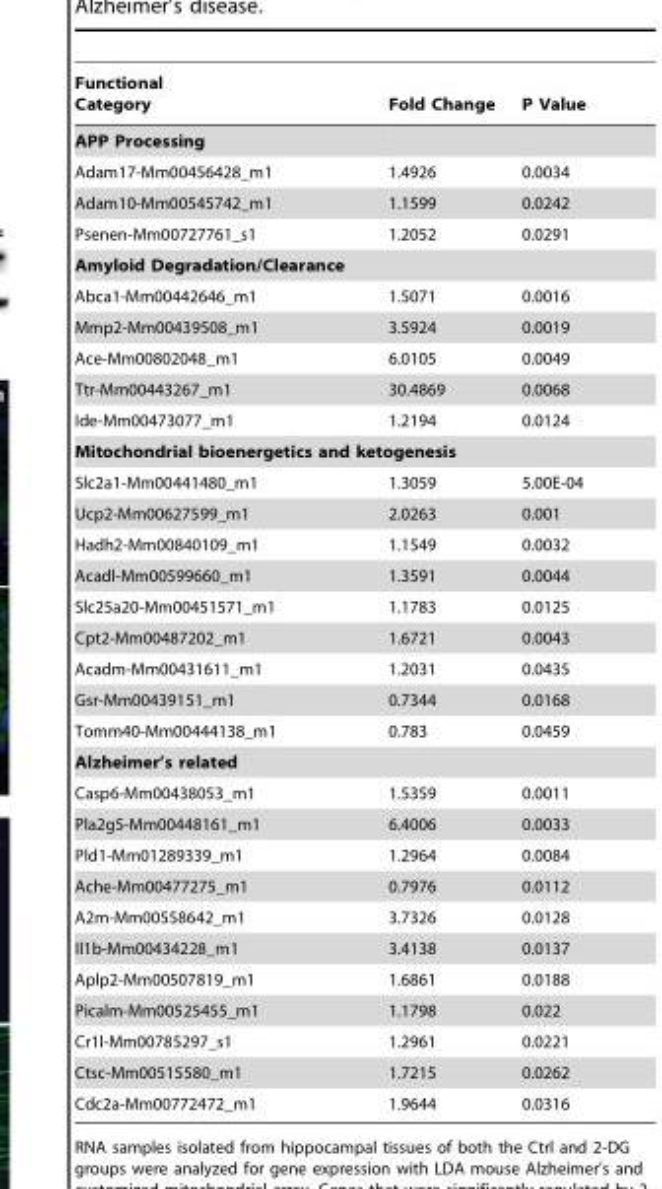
<table><thead><tr><td>Functional Category</td><td>Fold Change</td><td>P Value</td></tr></thead><tbody><tr><td colspan="3">APP Processing</td></tr><tr><td>Adam17-Mm00456428_m1</td><td>1.4926</td><td>0.0034</td></tr><tr><td>Adam10-Mm00545742_m1</td><td>1.1599</td><td>0.0242</td></tr><tr><td>Psenen-Mm00727761_s1</td><td>1.2052</td><td>0.0291</td></tr><tr><td colspan="3">Amyloid Degradation/Clearance</td></tr><tr><td>Abca1-Mm00442646_m1</td><td>1.5071</td><td>0.0016</td></tr><tr><td>Mmp2-Mm00439508_m1</td><td>3.5924</td><td>0.0019</td></tr><tr><td>Ace-Mm00802048_m1</td><td>6.0105</td><td>0.0049</td></tr><tr><td>Ttr-Mm00443267_m1</td><td>30.4869</td><td>0.0068</td></tr><tr><td>Ide-Mm00473077_m1</td><td>1.2194</td><td>0.0124</td></tr><tr><td colspan="3">Mitochondrial bioenergetics and ketogenesis</td></tr><tr><td>Slc2a1-Mm00441480_m1</td><td>1.3059</td><td>5.00E-04</td></tr><tr><td>Ucp2-Mm00627599_m1</td><td>2.0263</td><td>0.001</td></tr><tr><td>Hadh2-Mm00840109_m1</td><td>1.1549</td><td>0.0032</td></tr><tr><td>Acadl-Mm00599660_m1</td><td>1.3591</td><td>0.0044</td></tr><tr><td>Slc25a20-Mm00451571_m1</td><td>1.1783</td><td>0.0125</td></tr><tr><td>Cpt2-Mm00487202_m1</td><td>1.6721</td><td>0.0043</td></tr><tr><td>Acadm-Mm00431611_m1</td><td>1.2031</td><td>0.0435</td></tr><tr><td>Gsr-Mm00439151_m1</td><td>0.7344</td><td>0.0168</td></tr><tr><td>Tomm40-Mm00444138_m1</td><td>0.783</td><td>0.0459</td></tr><tr><td colspan="3">Alzheimer’s related</td></tr><tr><td>Casp6-Mm00438053_m1</td><td>1.5359</td><td>0.0011</td></tr><tr><td>Pla2g5-Mm00448161_m1</td><td>6.4006</td><td>0.0033</td></tr><tr><td>Pld1-Mm01289339_m1</td><td>1.2964</td><td>0.0084</td></tr><tr><td>Ache-Mm00477275_m1</td><td>0.7976</td><td>0.0112</td></tr><tr><td>A2m-Mm00558642_m1</td><td>3.7326</td><td>0.0128</td></tr><tr><td>Il1b-Mm00434228_m1</td><td>3.4138</td><td>0.0137</td></tr><tr><td>Aplp2-Mm00507819_m1</td><td>1.6861</td><td>0.0188</td></tr><tr><td>Picalm-Mm00525455_m1</td><td>1.1798</td><td>0.022</td></tr><tr><td>Cr1l-Mm00785297_s1</td><td>1.2961</td><td>0.0221</td></tr><tr><td>Ctsc-Mm00515580_m1</td><td>1.7215</td><td>0.0262</td></tr><tr><td>Cdc2a-Mm00772472_m1</td><td>1.9644</td><td>0.0316</td></tr></tbody></table>